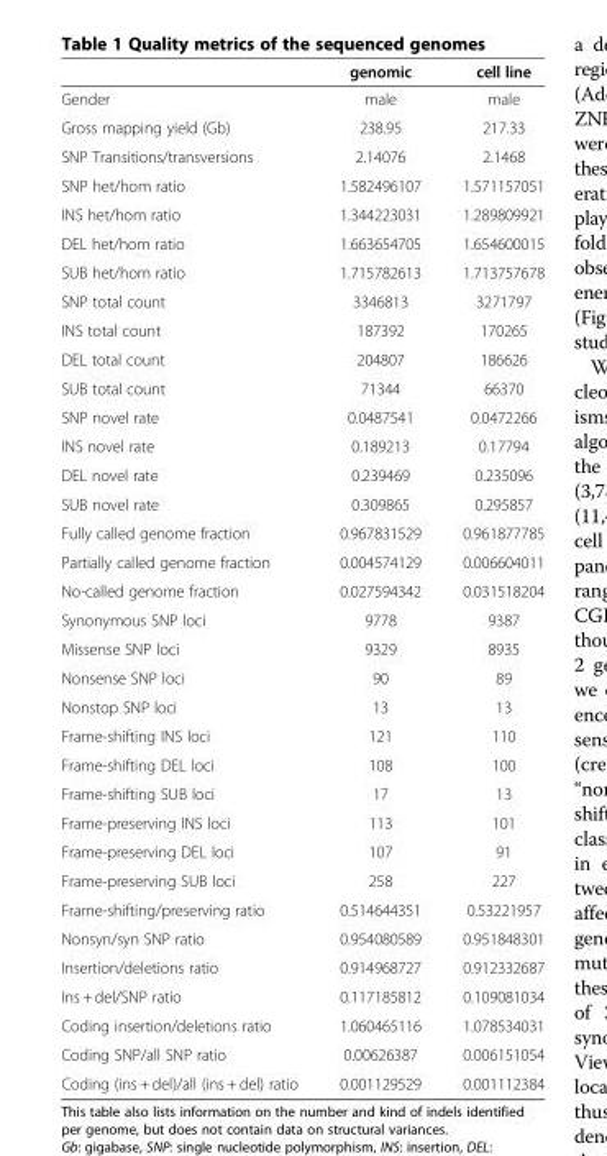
<table><thead><tr><td></td><td>genomic</td><td>cell line</td></tr></thead><tbody><tr><td>Gender</td><td>male</td><td>male</td></tr><tr><td>Gross mapping yield (Gb)</td><td>238.95</td><td>217.33</td></tr><tr><td>SNP Transitions/transversions</td><td>2.14076</td><td>2.1468</td></tr><tr><td>SNP het/hom ratio</td><td>1.582496107</td><td>1.571157051</td></tr><tr><td>INS het/hom ratio</td><td>1.344223031</td><td>1.289809921</td></tr><tr><td>DEL het/hom ratio</td><td>1.663654705</td><td>1.654600015</td></tr><tr><td>SUB het/hom ratio</td><td>1.715782613</td><td>1.713757678</td></tr><tr><td>SNP total count</td><td>3346813</td><td>3271797</td></tr><tr><td>INS total count</td><td>187392</td><td>170265</td></tr><tr><td>DEL total count</td><td>204807</td><td>186626</td></tr><tr><td>SUB total count</td><td>71344</td><td>66370</td></tr><tr><td>SNP novel rate</td><td>0.0487541</td><td>0.0472266</td></tr><tr><td>INS novel rate</td><td>0.189213</td><td>0.17794</td></tr><tr><td>DEL novel rate</td><td>0.239469</td><td>0.235096</td></tr><tr><td>SUB novel rate</td><td>0.309865</td><td>0.295857</td></tr><tr><td>Fully called genome fraction</td><td>0.967831529</td><td>0.961877785</td></tr><tr><td>Partially called genome fraction</td><td>0.004574129</td><td>0.006604011</td></tr><tr><td>No-called genome fraction</td><td>0.027594342</td><td>0.031518204</td></tr><tr><td>Synonymous SNP loci</td><td>9778</td><td>9387</td></tr><tr><td>Missense SNP loci</td><td>9329</td><td>8935</td></tr><tr><td>Nonsense SNP loci</td><td>90</td><td>89</td></tr><tr><td>Nonstop SNP loci</td><td>13</td><td>13</td></tr><tr><td>Frame-shifting INS loci</td><td>121</td><td>110</td></tr><tr><td>Frame-shifting DEL loci</td><td>108</td><td>100</td></tr><tr><td>Frame-shifting SUB loci</td><td>17</td><td>13</td></tr><tr><td>Frame-preserving INS loci</td><td>113</td><td>101</td></tr><tr><td>Frame-preserving DEL loci</td><td>107</td><td>91</td></tr><tr><td>Frame-preserving SUB loci</td><td>258</td><td>227</td></tr><tr><td>Frame-shifting/preserving ratio</td><td>0.514644351</td><td>0.53221957</td></tr><tr><td>Nonsyn/syn SNP ratio</td><td>0.954080589</td><td>0.951848301</td></tr><tr><td>Insertion/deletions ratio</td><td>0.914968727</td><td>0.912332687</td></tr><tr><td>Ins + del/SNP ratio</td><td>0.117185812</td><td>0.109081034</td></tr><tr><td>Coding insertion/deletions ratio</td><td>1.060465116</td><td>1.078534031</td></tr><tr><td>Coding SNP/all SNP ratio</td><td>0.00626387</td><td>0.006151054</td></tr><tr><td>Coding (ins + del)/all (ins + del) ratio</td><td>0.001129529</td><td>0.001112384</td></tr></tbody></table>